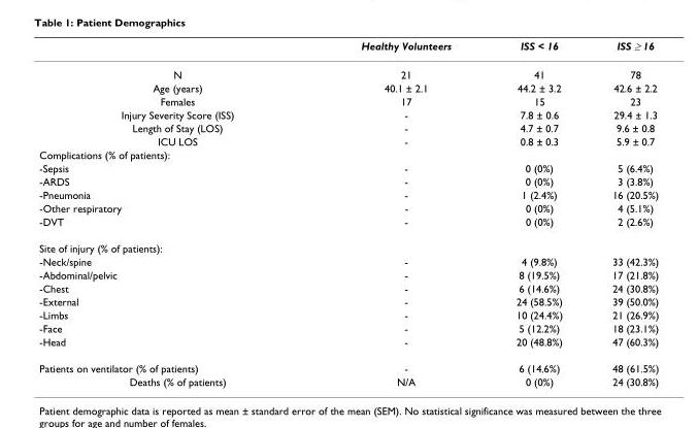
<table><thead><tr><td></td><td>Healthy Volunteers</td><td>ISS &lt; 16</td><td>ISS ≥ 16</td></tr></thead><tbody><tr><td>N</td><td>21</td><td>41</td><td>78</td></tr><tr><td>Age (years)</td><td>40.1 ± 2.1</td><td>44.2 ± 3.2</td><td>42.6 ± 2.2</td></tr><tr><td>Females</td><td>17</td><td>15</td><td>23</td></tr><tr><td>Injury Severity Score (ISS)</td><td>-</td><td>7.8 ± 0.6</td><td>29.4 ± 1.3</td></tr><tr><td>Length of Stay (LOS)</td><td>-</td><td>4.7 ± 0.7</td><td>9.6 ± 0.8</td></tr><tr><td>ICU LOS</td><td>-</td><td>0.8 ± 0.3</td><td>5.9 ± 0.7</td></tr><tr><td colspan="4">Complications (% of patients):</td></tr><tr><td>-Sepsis</td><td>-</td><td>0 (0%)</td><td>5 (6.4%)</td></tr><tr><td>-ARDS</td><td>-</td><td>0 (0%)</td><td>3 (3.8%)</td></tr><tr><td>-Pneumonia</td><td>-</td><td>1 (2.4%)</td><td>16 (20.5%)</td></tr><tr><td>-Other respiratory</td><td>-</td><td>0 (0%)</td><td>4 (5.1%)</td></tr><tr><td>-DVT</td><td>-</td><td>0 (0%)</td><td>2 (2.6%)</td></tr><tr><td colspan="4">Site of injury (% of patients):</td></tr><tr><td>-Neck/spine</td><td>-</td><td>4 (9.8%)</td><td>33 (42.3%)</td></tr><tr><td>-Abdominal/pelvic</td><td>-</td><td>8 (19.5%)</td><td>17 (21.8%)</td></tr><tr><td>-Chest</td><td>-</td><td>6 (14.6%)</td><td>24 (30.8%)</td></tr><tr><td>-External</td><td>-</td><td>24 (58.5%)</td><td>39 (50.0%)</td></tr><tr><td>-Limbs</td><td>-</td><td>10 (24.4%)</td><td>21 (26.9%)</td></tr><tr><td>-Face</td><td>-</td><td>5 (12.2%)</td><td>18 (23.1%)</td></tr><tr><td>-Head</td><td>-</td><td>20 (48.8%)</td><td>47 (60.3%)</td></tr><tr><td>Patients on ventilator (% of patients)</td><td>-</td><td>6 (14.6%)</td><td>48 (61.5%)</td></tr><tr><td>Deaths (% of patients)</td><td>N/A</td><td>0 (0%)</td><td>24 (30.8%)</td></tr></tbody></table>